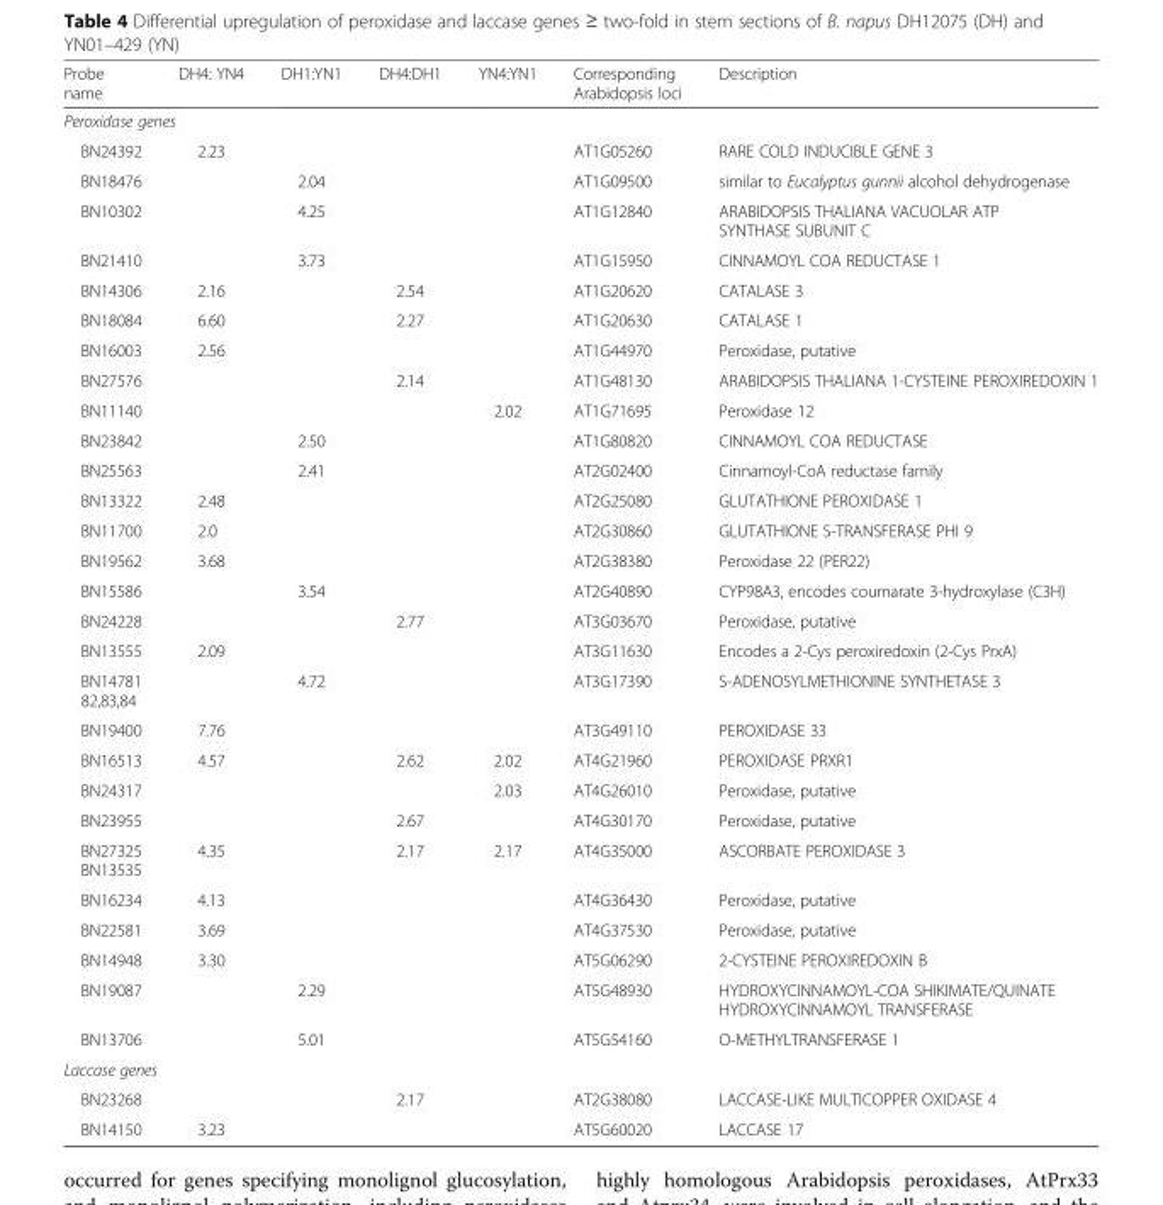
<table><thead><tr><td>Probe name</td><td>DH4: YN4</td><td>DH1:YN1</td><td>DH4:DH1</td><td>YN4:YN1</td><td>Corresponding Arabidopsis loci</td><td>Description</td></tr></thead><tbody><tr><td colspan="7">Peroxidase genes</td></tr><tr><td>BN24392</td><td>2.23</td><td></td><td></td><td></td><td>AT1G05260</td><td>RARE COLD INDUCIBLE GENE 3</td></tr><tr><td>BN18476</td><td></td><td>2.04</td><td></td><td></td><td>AT1G09500</td><td>similar to Eucalyptus gunnii alcohol dehydrogenase</td></tr><tr><td>BN10302</td><td></td><td>4.25</td><td></td><td></td><td>AT1G12840</td><td>ARABIDOPSIS THALIANA VACUOLAR ATP SYNTHASE SUBUNIT C</td></tr><tr><td>BN21410</td><td></td><td>3.73</td><td></td><td></td><td>AT1G15950</td><td>CINNAMOYL COA REDUCTASE 1</td></tr><tr><td>BN14306</td><td>2.16</td><td></td><td>2.54</td><td></td><td>AT1G20620</td><td>CATALASE 3</td></tr><tr><td>BN18084</td><td>6.60</td><td></td><td>2.27</td><td></td><td>AT1G20630</td><td>CATALASE 1</td></tr><tr><td>BN16003</td><td>2.56</td><td></td><td></td><td></td><td>AT1G44970</td><td>Peroxidase, putative</td></tr><tr><td>BN27576</td><td></td><td></td><td>2.14</td><td></td><td>AT1G48130</td><td>ARABIDOPSIS THALIANA 1-CYSTEINE PEROXIREDOXIN 1</td></tr><tr><td>BN11140</td><td></td><td></td><td></td><td>2.02</td><td>AT1G71695</td><td>Peroxidase 12</td></tr><tr><td>BN23842</td><td></td><td>2.50</td><td></td><td></td><td>AT1G80820</td><td>CINNAMOYL COA REDUCTASE</td></tr><tr><td>BN25563</td><td></td><td>2.41</td><td></td><td></td><td>AT2G02400</td><td>Cinnamoyl-CoA reductase family</td></tr><tr><td>BN13322</td><td>2.48</td><td></td><td></td><td></td><td>AT2G25080</td><td>GLUTATHIONE PEROXIDASE 1</td></tr><tr><td>BN11700</td><td>2.0</td><td></td><td></td><td></td><td>AT2G30860</td><td>GLUTATHIONE S-TRANSFERASE PHI 9</td></tr><tr><td>BN19562</td><td>3.68</td><td></td><td></td><td></td><td>AT2G38380</td><td>Peroxidase 22 (PER22)</td></tr><tr><td>BN15586</td><td></td><td>3.54</td><td></td><td></td><td>AT2G40890</td><td>CYP98A3, encodes coumarate 3-hydroxylase (C3H)</td></tr><tr><td>BN24228</td><td></td><td></td><td>2.77</td><td></td><td>AT3G03670</td><td>Peroxidase, putative</td></tr><tr><td>BN13555</td><td>2.09</td><td></td><td></td><td></td><td>AT3G11630</td><td>Encodes a 2-Cys peroxiredoxin (2-Cys PrxA)</td></tr><tr><td>BN14781 82,83,84</td><td></td><td>4.72</td><td></td><td></td><td>AT3G17390</td><td>S-ADENOSYLMETHIONINE SYNTHETASE 3</td></tr><tr><td>BN19400</td><td>7.76</td><td></td><td></td><td></td><td>AT3G49110</td><td>PEROXIDASE 33</td></tr><tr><td>BN16513</td><td>4.57</td><td></td><td>2.62</td><td>2.02</td><td>AT4G21960</td><td>PEROXIDASE PRXR1</td></tr><tr><td>BN24317</td><td></td><td></td><td></td><td>2.03</td><td>AT4G26010</td><td>Peroxidase, putative</td></tr><tr><td>BN23955</td><td></td><td></td><td>2.67</td><td></td><td>AT4G30170</td><td>Peroxidase, putative</td></tr><tr><td>BN27325 BN13535</td><td>4.35</td><td></td><td>2.17</td><td>2.17</td><td>AT4G35000</td><td>ASCORBATE PEROXIDASE 3</td></tr><tr><td>BN16234</td><td>4.13</td><td></td><td></td><td></td><td>AT4G36430</td><td>Peroxidase, putative</td></tr><tr><td>BN22581</td><td>3.69</td><td></td><td></td><td></td><td>AT4G37530</td><td>Peroxidase, putative</td></tr><tr><td>BN14948</td><td>3.30</td><td></td><td></td><td></td><td>AT5G06290</td><td>2-CYSTEINE PEROXIREDOXIN B</td></tr><tr><td>BN19087</td><td></td><td>2.29</td><td></td><td></td><td>AT5G48930</td><td>HYDROXYCINNAMOYL-COA SHIKIMATE/QUINATE HYDROXYCINNAMOYL TRANSFERASE</td></tr><tr><td>BN13706</td><td></td><td>5.01</td><td></td><td></td><td>AT5G54160</td><td>O-METHYLTRANSFERASE 1</td></tr><tr><td colspan="7">Laccase genes</td></tr><tr><td>BN23268</td><td></td><td></td><td>2.17</td><td></td><td>AT2G38080</td><td>LACCASE-LIKE MULTICOPPER OXIDASE 4</td></tr><tr><td>BN14150</td><td>3.23</td><td></td><td></td><td></td><td>AT5G60020</td><td>LACCASE 17</td></tr></tbody></table>